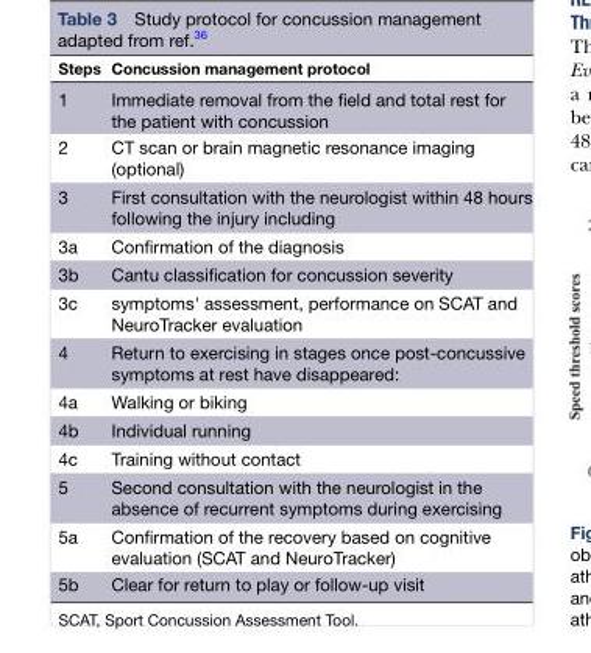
<table><thead><tr><td>Steps</td><td>Concussion management protocol</td></tr></thead><tbody><tr><td>1</td><td>Immediate removal from the field and total rest for the patient with concussion</td></tr><tr><td>2</td><td>CT scan or brain magnetic resonance imaging (optional)</td></tr><tr><td>3</td><td>First consultation with the neurologist within 48 hours following the injury including</td></tr><tr><td>3a</td><td>Confirmation of the diagnosis</td></tr><tr><td>3b</td><td>Cantu classification for concussion severity</td></tr><tr><td>3c</td><td>symptoms&#x27; assessment, performance on SCAT and NeuroTracker evaluation</td></tr><tr><td>4</td><td>Return to exercising in stages once post-concussive symptoms at rest have disappeared:</td></tr><tr><td>4a</td><td>Walking or biking</td></tr><tr><td>4b</td><td>Individual running</td></tr><tr><td>4c</td><td>Training without contact</td></tr><tr><td>5</td><td>Second consultation with the neurologist in the absence of recurrent symptoms during exercising</td></tr><tr><td>5a</td><td>Confirmation of the recovery based on cognitive evaluation (SCAT and NeuroTracker)</td></tr><tr><td>5b</td><td>Clear for return to play or follow-up visit</td></tr></tbody></table>